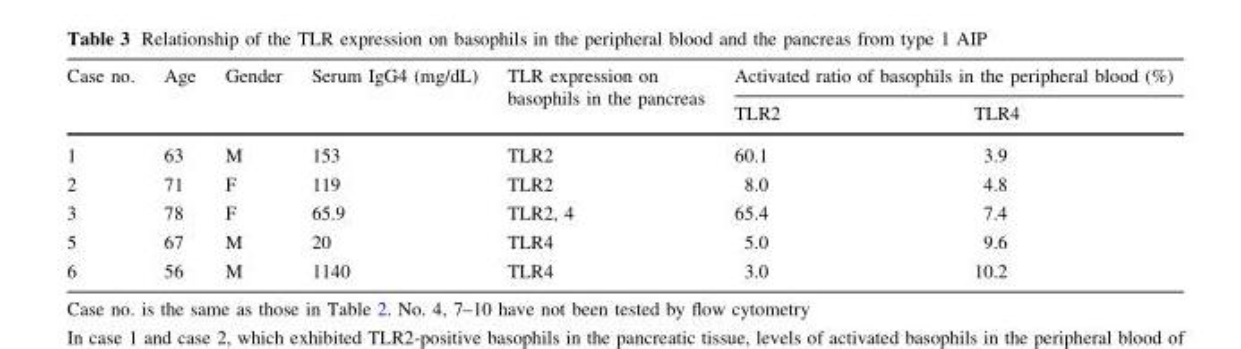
<table><thead><tr><td rowspan="2">Case no.</td><td rowspan="2">Age</td><td rowspan="2">Gender</td><td rowspan="2">Serum IgG4 (mg/dL)</td><td rowspan="2">TLR expression on basophils in the pancreas</td><td colspan="2">Activated ratio of basophils in the peripheral blood (%)</td></tr><tr><td>TLR2</td><td>TLR4</td></tr></thead><tbody><tr><td>1</td><td>63</td><td>M</td><td>153</td><td>TLR2</td><td>60.1</td><td>3.9</td></tr><tr><td>2</td><td>71</td><td>F</td><td>119</td><td>TLR2</td><td>8.0</td><td>4.8</td></tr><tr><td>3</td><td>78</td><td>F</td><td>65.9</td><td>TLR2, 4</td><td>65.4</td><td>7.4</td></tr><tr><td>5</td><td>67</td><td>M</td><td>20</td><td>TLR4</td><td>5.0</td><td>9.6</td></tr><tr><td>6</td><td>56</td><td>M</td><td>1140</td><td>TLR4</td><td>3.0</td><td>10.2</td></tr></tbody></table>